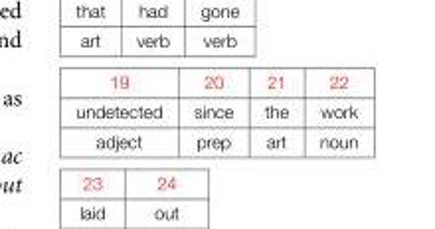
<table><tbody><tr><td>19</td><td>20</td><td>21</td><td>22</td></tr><tr><td>undetected</td><td>since</td><td>the</td><td>work</td></tr><tr><td>adject</td><td>prep</td><td>art</td><td>noun</td></tr></tbody></table>